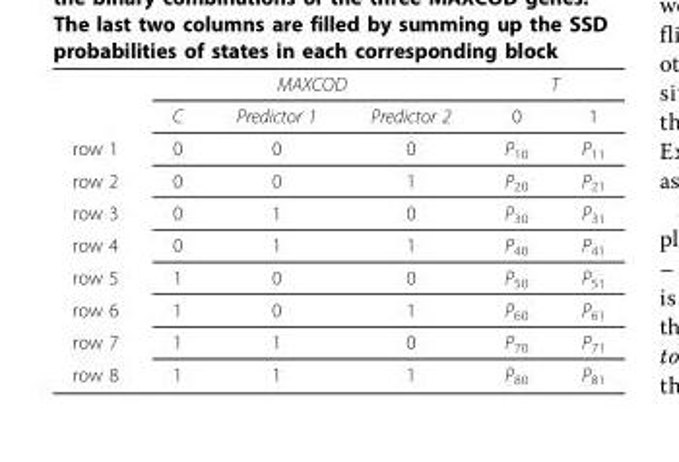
<table><thead><tr><td rowspan="2"></td><td colspan="3">MAXCOD</td><td colspan="2">T</td></tr><tr><td>C</td><td>Predictor 1</td><td>Predictor 2</td><td>0</td><td>1</td></tr></thead><tbody><tr><td>row 1</td><td>0</td><td>0</td><td>0</td><td>P<sub>10</sub></td><td>P<sub>11</sub></td></tr><tr><td>row 2</td><td>0</td><td>0</td><td>1</td><td>P<sub>20</sub></td><td>P<sub>21</sub></td></tr><tr><td>row 3</td><td>0</td><td>1</td><td>0</td><td>P<sub>30</sub></td><td>P<sub>31</sub></td></tr><tr><td>row 4</td><td>0</td><td>1</td><td>1</td><td>P<sub>40</sub></td><td>P<sub>41</sub></td></tr><tr><td>row 5</td><td>1</td><td>0</td><td>0</td><td>P<sub>50</sub></td><td>P<sub>51</sub></td></tr><tr><td>row 6</td><td>1</td><td>0</td><td>1</td><td>P<sub>60</sub></td><td>P<sub>61</sub></td></tr><tr><td>row 7</td><td>1</td><td>1</td><td>0</td><td>P<sub>70</sub></td><td>P<sub>71</sub></td></tr><tr><td>row 8</td><td>1</td><td>1</td><td>1</td><td>P<sub>80</sub></td><td>P<sub>81</sub></td></tr></tbody></table>